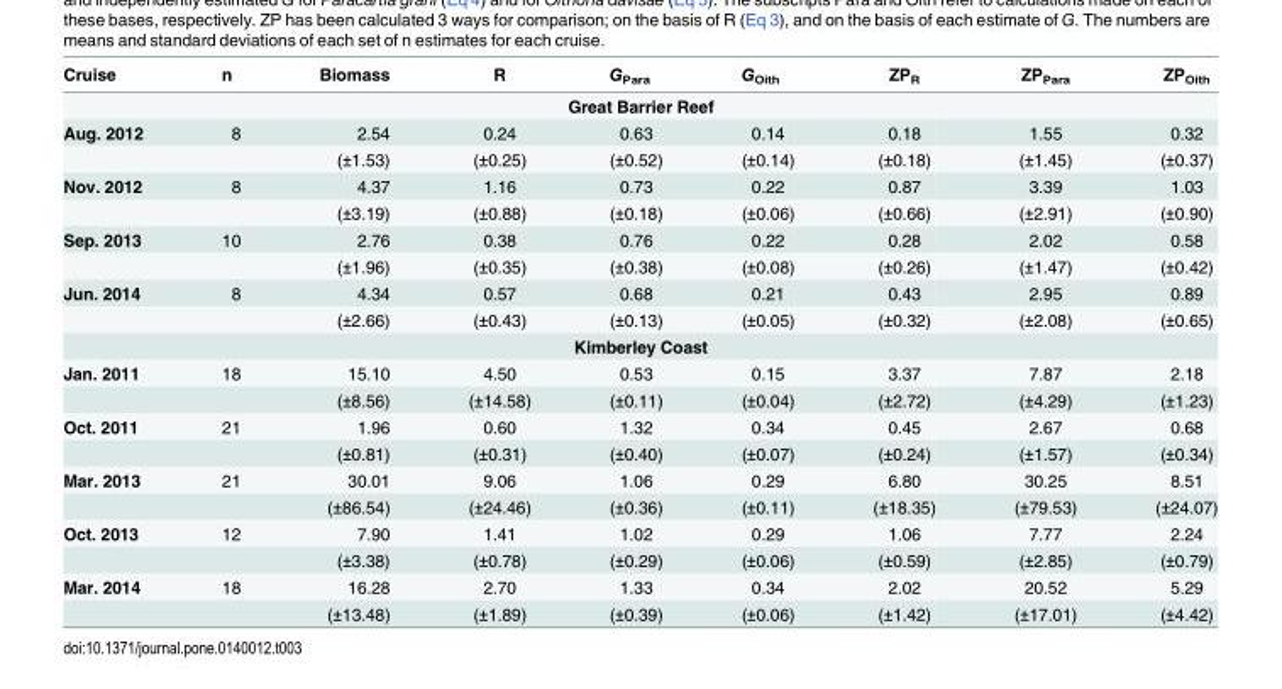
<table><thead><tr><td>Cruise</td><td>n</td><td>Biomass</td><td>R</td><td>G<sub>Para</sub></td><td>G<sub>Oith</sub></td><td>ZP<sub>R</sub></td><td>ZP<sub>Para</sub></td><td>ZP<sub>Oith</sub></td></tr></thead><tbody><tr><td colspan="9">Great Barrier Reef</td></tr><tr><td rowspan="2">Aug. 2012</td><td>8</td><td>2.54</td><td>0.24</td><td>0.63</td><td>0.14</td><td>0.18</td><td>1.55</td><td>0.32</td></tr><tr><td></td><td>(±1.53)</td><td>(±0.25)</td><td>(±0.52)</td><td>(±0.14)</td><td>(±0.18)</td><td>(±1.45)</td><td>(±0.37)</td></tr><tr><td rowspan="2">Nov. 2012</td><td>8</td><td>4.37</td><td>1.16</td><td>0.73</td><td>0.22</td><td>0.87</td><td>3.39</td><td>1.03</td></tr><tr><td></td><td>(±3.19)</td><td>(±0.88)</td><td>(±0.18)</td><td>(±0.06)</td><td>(±0.66)</td><td>(±2.91)</td><td>(±0.90)</td></tr><tr><td rowspan="2">Sep. 2013</td><td>10</td><td>2.76</td><td>0.38</td><td>0.76</td><td>0.22</td><td>0.28</td><td>2.02</td><td>0.58</td></tr><tr><td></td><td>(±1.96)</td><td>(±0.35)</td><td>(±0.38)</td><td>(±0.08)</td><td>(±0.26)</td><td>(±1.47)</td><td>(±0.42)</td></tr><tr><td rowspan="2">Jun. 2014</td><td>8</td><td>4.34</td><td>0.57</td><td>0.68</td><td>0.21</td><td>0.43</td><td>2.95</td><td>0.89</td></tr><tr><td></td><td>(±2.66)</td><td>(±0.43)</td><td>(±0.13)</td><td>(±0.05)</td><td>(±0.32)</td><td>(±2.08)</td><td>(±0.65)</td></tr><tr><td colspan="9">Kimberley Coast</td></tr><tr><td rowspan="2">Jan. 2011</td><td>18</td><td>15.10</td><td>4.50</td><td>0.53</td><td>0.15</td><td>3.37</td><td>7.87</td><td>2.18</td></tr><tr><td></td><td>(±8.56)</td><td>(±14.58)</td><td>(±0.11)</td><td>(±0.04)</td><td>(±2.72)</td><td>(±4.29)</td><td>(±1.23)</td></tr><tr><td rowspan="2">Oct. 2011</td><td>21</td><td>1.96</td><td>0.60</td><td>1.32</td><td>0.34</td><td>0.45</td><td>2.67</td><td>0.68</td></tr><tr><td></td><td>(±0.81)</td><td>(±0.31)</td><td>(±0.40)</td><td>(±0.07)</td><td>(±0.24)</td><td>(±1.57)</td><td>(±0.34)</td></tr><tr><td rowspan="2">Mar. 2013</td><td>21</td><td>30.01</td><td>9.06</td><td>1.06</td><td>0.29</td><td>6.80</td><td>30.25</td><td>8.51</td></tr><tr><td></td><td>(±86.54)</td><td>(±24.46)</td><td>(±0.36)</td><td>(±0.11)</td><td>(±18.35)</td><td>(±79.53)</td><td>(±24.07)</td></tr><tr><td rowspan="2">Oct. 2013</td><td>12</td><td>7.90</td><td>1.41</td><td>1.02</td><td>0.29</td><td>1.06</td><td>7.77</td><td>2.24</td></tr><tr><td></td><td>(±3.38)</td><td>(±0.78)</td><td>(±0.29)</td><td>(±0.06)</td><td>(±0.59)</td><td>(±2.85)</td><td>(±0.79)</td></tr><tr><td rowspan="2">Mar. 2014</td><td>18</td><td>16.28</td><td>2.70</td><td>1.33</td><td>0.34</td><td>2.02</td><td>20.52</td><td>5.29</td></tr><tr><td></td><td>(±13.48)</td><td>(±1.89)</td><td>(±0.39)</td><td>(±0.06)</td><td>(±1.42)</td><td>(±17.01)</td><td>(±4.42)</td></tr></tbody></table>